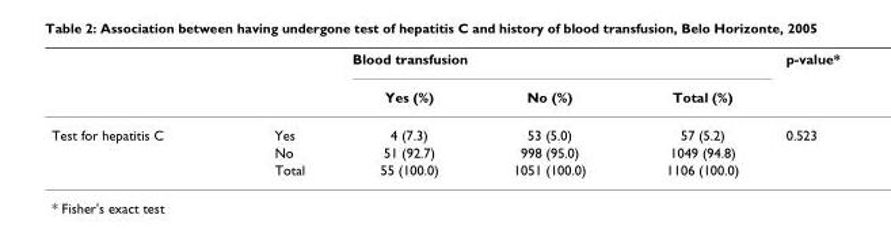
<table><thead><tr><td rowspan="2"></td><td rowspan="2"></td><td colspan="3">Blood transfusion</td><td rowspan="2">p-value*</td></tr><tr><td>Yes (%)</td><td>No (%)</td><td>Total (%)</td></tr></thead><tbody><tr><td rowspan="3">Test for hepatitis C</td><td>Yes</td><td>4 (7.3)</td><td>53 (5.0)</td><td>57 (5.2)</td><td>0.523</td></tr><tr><td>No</td><td>51 (92.7)</td><td>998 (95.0)</td><td>1049 (94.8)</td><td></td></tr><tr><td>Total</td><td>55 (100.0)</td><td>1051 (100.0)</td><td>1106 (100.0)</td><td></td></tr></tbody></table>